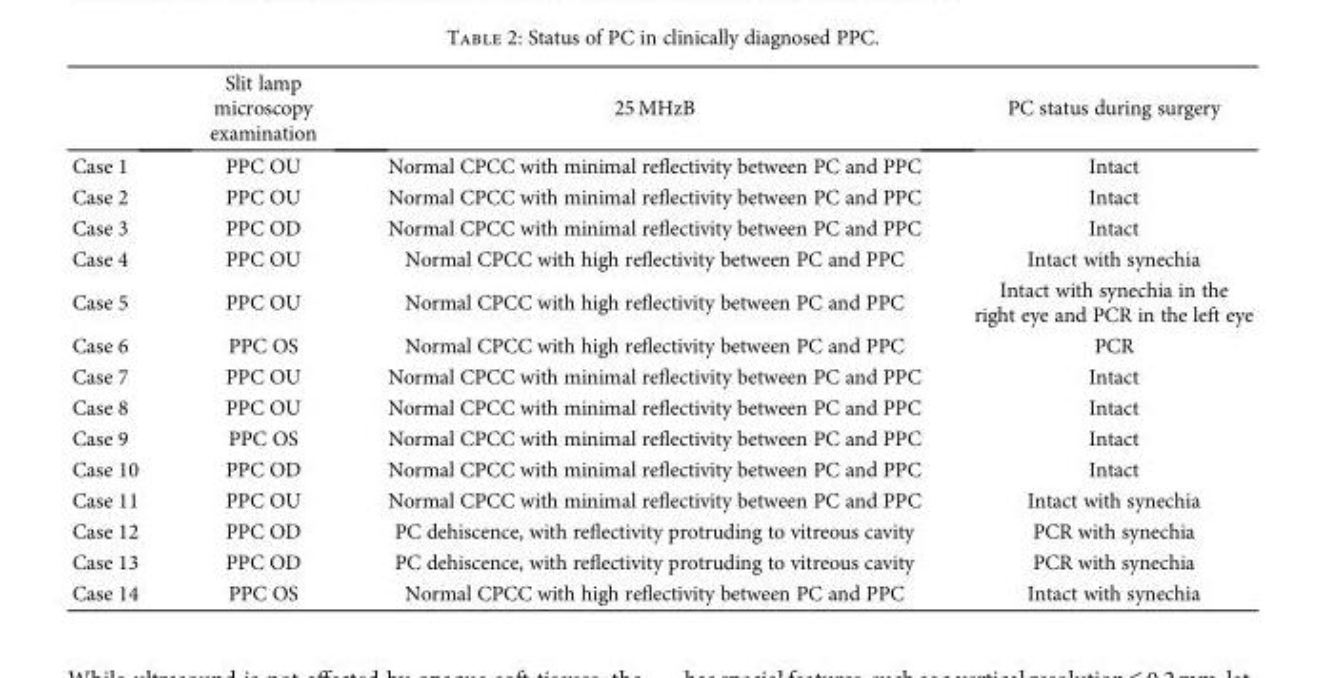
<table><thead><tr><td></td><td>Slit lamp microscopy examination</td><td>25 MHzB</td><td>PC status during surgery</td></tr></thead><tbody><tr><td>Case 1</td><td>PPC OU</td><td>Normal CPCC with minimal reflectivity between PC and PPC</td><td>Intact</td></tr><tr><td>Case 2</td><td>PPC OU</td><td>Normal CPCC with minimal reflectivity between PC and PPC</td><td>Intact</td></tr><tr><td>Case 3</td><td>PPC OD</td><td>Normal CPCC with minimal reflectivity between PC and PPC</td><td>Intact</td></tr><tr><td>Case 4</td><td>PPC OU</td><td>Normal CPCC with high reflectivity between PC and PPC</td><td>Intact with synechia</td></tr><tr><td>Case 5</td><td>PPC OU</td><td>Normal CPCC with high reflectivity between PC and PPC</td><td>Intact with synechia in the right eye and PCR in the left eye</td></tr><tr><td>Case 6</td><td>PPC OS</td><td>Normal CPCC with high reflectivity between PC and PPC</td><td>PCR</td></tr><tr><td>Case 7</td><td>PPC OU</td><td>Normal CPCC with minimal reflectivity between PC and PPC</td><td>Intact</td></tr><tr><td>Case 8</td><td>PPC OU</td><td>Normal CPCC with minimal reflectivity between PC and PPC</td><td>Intact</td></tr><tr><td>Case 9</td><td>PPC OS</td><td>Normal CPCC with minimal reflectivity between PC and PPC</td><td>Intact</td></tr><tr><td>Case 10</td><td>PPC OD</td><td>Normal CPCC with minimal reflectivity between PC and PPC</td><td>Intact</td></tr><tr><td>Case 11</td><td>PPC OU</td><td>Normal CPCC with minimal reflectivity between PC and PPC</td><td>Intact with synechia</td></tr><tr><td>Case 12</td><td>PPC OD</td><td>PC dehiscence, with reflectivity protruding to vitreous cavity</td><td>PCR with synechia</td></tr><tr><td>Case 13</td><td>PPC OD</td><td>PC dehiscence, with reflectivity protruding to vitreous cavity</td><td>PCR with synechia</td></tr><tr><td>Case 14</td><td>PPC OS</td><td>Normal CPCC with high reflectivity between PC and PPC</td><td>Intact with synechia</td></tr></tbody></table>